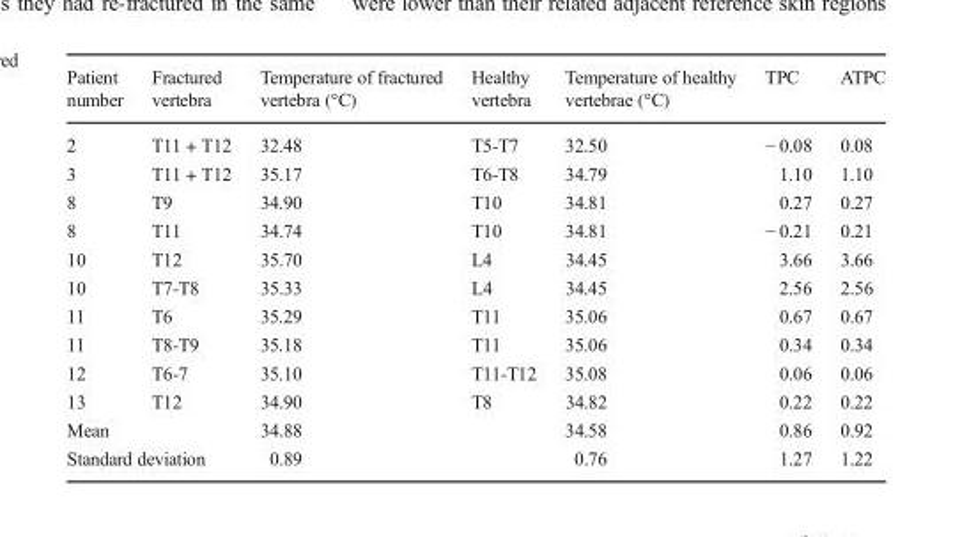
<table><thead><tr><td>Patient number</td><td>Fractured vertebra</td><td>Temperature of fractured vertebra (°C)</td><td>Healthy vertebra</td><td>Temperature of healthy vertebrae (°C)</td><td>TPC</td><td>ATPC</td></tr></thead><tbody><tr><td>2</td><td>T11 + T12</td><td>32.48</td><td>T5-T7</td><td>32.50</td><td>− 0.08</td><td>0.08</td></tr><tr><td>3</td><td>T11 + T12</td><td>35.17</td><td>T6-T8</td><td>34.79</td><td>1.10</td><td>1.10</td></tr><tr><td>8</td><td>T9</td><td>34.90</td><td>T10</td><td>34.81</td><td>0.27</td><td>0.27</td></tr><tr><td>8</td><td>T11</td><td>34.74</td><td>T10</td><td>34.81</td><td>− 0.21</td><td>0.21</td></tr><tr><td>10</td><td>T12</td><td>35.70</td><td>L4</td><td>34.45</td><td>3.66</td><td>3.66</td></tr><tr><td>10</td><td>T7-T8</td><td>35.33</td><td>L4</td><td>34.45</td><td>2.56</td><td>2.56</td></tr><tr><td>11</td><td>T6</td><td>35.29</td><td>T11</td><td>35.06</td><td>0.67</td><td>0.67</td></tr><tr><td>11</td><td>T8-T9</td><td>35.18</td><td>T11</td><td>35.06</td><td>0.34</td><td>0.34</td></tr><tr><td>12</td><td>T6-7</td><td>35.10</td><td>T11-T12</td><td>35.08</td><td>0.06</td><td>0.06</td></tr><tr><td>13</td><td>T12</td><td>34.90</td><td>T8</td><td>34.82</td><td>0.22</td><td>0.22</td></tr><tr><td colspan="2">Mean</td><td>34.88</td><td></td><td>34.58</td><td>0.86</td><td>0.92</td></tr><tr><td colspan="2">Standard deviation</td><td>0.89</td><td></td><td>0.76</td><td>1.27</td><td>1.22</td></tr></tbody></table>